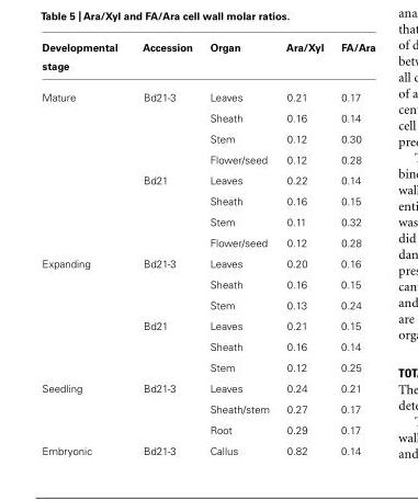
<table><thead><tr><td>Developmental stage</td><td>Accession</td><td>Organ</td><td>Ara/Xyl</td><td>FA/Ara</td></tr></thead><tbody><tr><td rowspan="8">Mature</td><td>Bd21-3</td><td>Leaves</td><td>0.21</td><td>0.17</td></tr><tr><td></td><td>Sheath</td><td>0.16</td><td>0.14</td></tr><tr><td></td><td>Stem</td><td>0.12</td><td>0.30</td></tr><tr><td></td><td>Flower/seed</td><td>0.12</td><td>0.28</td></tr><tr><td>Bd21</td><td>Leaves</td><td>0.22</td><td>0.14</td></tr><tr><td></td><td>Sheath</td><td>0.16</td><td>0.15</td></tr><tr><td></td><td>Stem</td><td>0.11</td><td>0.32</td></tr><tr><td></td><td>Flower/seed</td><td>0.12</td><td>0.28</td></tr><tr><td rowspan="6">Expanding</td><td>Bd21-3</td><td>Leaves</td><td>0.20</td><td>0.16</td></tr><tr><td></td><td>Sheath</td><td>0.16</td><td>0.15</td></tr><tr><td></td><td>Stem</td><td>0.13</td><td>0.24</td></tr><tr><td>Bd21</td><td>Leaves</td><td>0.21</td><td>0.15</td></tr><tr><td></td><td>Sheath</td><td>0.16</td><td>0.14</td></tr><tr><td></td><td>Stem</td><td>0.12</td><td>0.25</td></tr><tr><td rowspan="3">Seedling</td><td>Bd21-3</td><td>Leaves</td><td>0.24</td><td>0.21</td></tr><tr><td></td><td>Sheath/stem</td><td>0.27</td><td>0.17</td></tr><tr><td></td><td>Root</td><td>0.29</td><td>0.17</td></tr><tr><td>Embryonic</td><td>Bd21-3</td><td>Callus</td><td>0.82</td><td>0.14</td></tr></tbody></table>